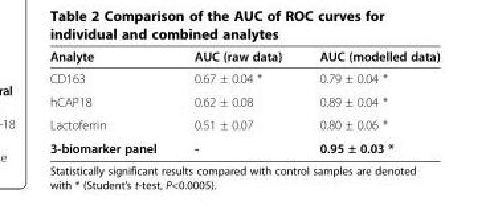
<table><thead><tr><td>Analyte</td><td>AUC (raw data)</td><td>AUC (modelled data)</td></tr></thead><tbody><tr><td>CD163</td><td>0.67 ± 0.04 *</td><td>0.79 ± 0.04 *</td></tr><tr><td>hCAP18</td><td>0.62 ± 0.08</td><td>0.89 ± 0.04 *</td></tr><tr><td>Lactoferrin</td><td>0.51 ± 0.07</td><td>0.80 ± 0.06 *</td></tr><tr><td>3-biomarker panel</td><td>-</td><td>0.95 ± 0.03 *</td></tr></tbody></table>